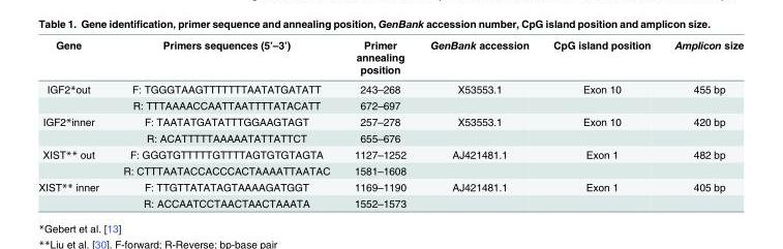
<table><thead><tr><td>Gene</td><td>Primers sequences (5’–3’)</td><td>Primer annealing position</td><td>GenBank accession</td><td>CpG island position</td><td>Amplicon size</td></tr></thead><tbody><tr><td rowspan="2">IGF2*out</td><td>F: TGGGTAAGTTTTTTTAATATGATATT</td><td>243–268</td><td>X53553.1</td><td>Exon 10</td><td>455 bp</td></tr><tr><td>R: TTTAAAACCAATTAATTTTATACATT</td><td>672–697</td><td></td><td></td><td></td></tr><tr><td rowspan="2">IGF2*inner</td><td>F: TAATATGATATTTGGAAGTAGT</td><td>257–278</td><td>X53553.1</td><td>Exon 10</td><td>420 bp</td></tr><tr><td>R: ACATTTTTAAAAATATTATTCT</td><td>655–676</td><td></td><td></td><td></td></tr><tr><td rowspan="2">XIST** out</td><td>F: GGGTGTTTTTGTTTTAGTGTGTAGTA</td><td>1127–1252</td><td>AJ421481.1</td><td>Exon 1</td><td>482 bp</td></tr><tr><td>R: CTTTAATACCACCCACTAAAATTAATAC</td><td>1581–1608</td><td></td><td></td><td></td></tr><tr><td rowspan="2">XIST** inner</td><td>F: TTGTTATATAGTAAAAGATGGT</td><td>1169–1190</td><td>AJ421481.1</td><td>Exon 1</td><td>405 bp</td></tr><tr><td>R: ACCAATCCTAACTAACTAAATA</td><td>1552–1573</td><td></td><td></td><td></td></tr></tbody></table>